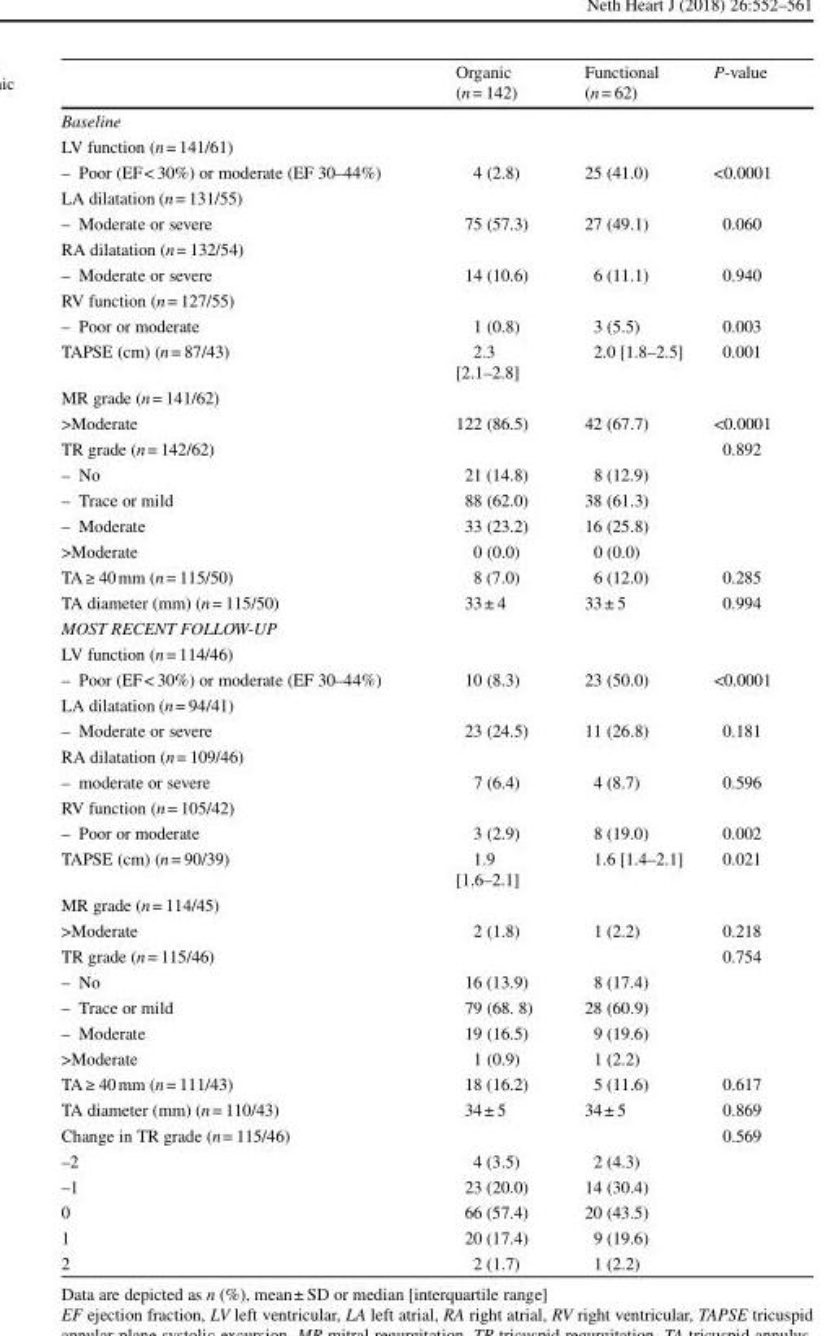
<table><thead><tr><td></td><td>Organic (n= 142)</td><td>Functional (n= 62)</td><td>P-value</td></tr></thead><tbody><tr><td colspan="4">Baseline</td></tr><tr><td colspan="4">LV function (n= 141/61)</td></tr><tr><td>– Poor (EF&lt; 30%) or moderate (EF 30–44%)</td><td>4 (2.8)</td><td>25 (41.0)</td><td>&lt;0.0001</td></tr><tr><td colspan="4">LA dilatation (n= 131/55)</td></tr><tr><td>– Moderate or severe</td><td>75 (57.3)</td><td>27 (49.1)</td><td>0.060</td></tr><tr><td colspan="4">RA dilatation (n= 132/54)</td></tr><tr><td>– Moderate or severe</td><td>14 (10.6)</td><td>6 (11.1)</td><td>0.940</td></tr><tr><td colspan="4">RV function (n= 127/55)</td></tr><tr><td>– Poor or moderate</td><td>1 (0.8)</td><td>3 (5.5)</td><td>0.003</td></tr><tr><td>TAPSE (cm) (n= 87/43)</td><td>2.3 [2.1–2.8]</td><td>2.0 [1.8–2.5]</td><td>0.001</td></tr><tr><td colspan="4">MR grade (n= 141/62)</td></tr><tr><td>&gt;Moderate</td><td>122 (86.5)</td><td>42 (67.7)</td><td>&lt;0.0001</td></tr><tr><td>TR grade (n= 142/62)</td><td></td><td></td><td>0.892</td></tr><tr><td>– No</td><td>21 (14.8)</td><td>8 (12.9)</td><td></td></tr><tr><td>– Trace or mild</td><td>88 (62.0)</td><td>38 (61.3)</td><td></td></tr><tr><td>– Moderate</td><td>33 (23.2)</td><td>16 (25.8)</td><td></td></tr><tr><td>&gt;Moderate</td><td>0 (0.0)</td><td>0 (0.0)</td><td></td></tr><tr><td>TA≥ 40mm (n= 115/50)</td><td>8 (7.0)</td><td>6 (12.0)</td><td>0.285</td></tr><tr><td>TA diameter (mm) (n= 115/50)</td><td>33± 4</td><td>33± 5</td><td>0.994</td></tr><tr><td colspan="4">MOST RECENT FOLLOW-UP</td></tr><tr><td colspan="4">LV function (n= 114/46)</td></tr><tr><td>– Poor (EF&lt; 30%) or moderate (EF 30–44%)</td><td>10 (8.3)</td><td>23 (50.0)</td><td>&lt;0.0001</td></tr><tr><td colspan="4">LA dilatation (n= 94/41)</td></tr><tr><td>– Moderate or severe</td><td>23 (24.5)</td><td>11 (26.8)</td><td>0.181</td></tr><tr><td colspan="4">RA dilatation (n= 109/46)</td></tr><tr><td>– moderate or severe</td><td>7 (6.4)</td><td>4 (8.7)</td><td>0.596</td></tr><tr><td colspan="4">RV function (n= 105/42)</td></tr><tr><td>– Poor or moderate</td><td>3 (2.9)</td><td>8 (19.0)</td><td>0.002</td></tr><tr><td>TAPSE (cm) (n= 90/39)</td><td>1.9 [1.6–2.1]</td><td>1.6 [1.4–2.1]</td><td>0.021</td></tr><tr><td colspan="4">MR grade (n= 114/45)</td></tr><tr><td>&gt;Moderate</td><td>2 (1.8)</td><td>1 (2.2)</td><td>0.218</td></tr><tr><td>TR grade (n= 115/46)</td><td></td><td></td><td>0.754</td></tr><tr><td>– No</td><td>16 (13.9)</td><td>8 (17.4)</td><td></td></tr><tr><td>– Trace or mild</td><td>79 (68. 8)</td><td>28 (60.9)</td><td></td></tr><tr><td>– Moderate</td><td>19 (16.5)</td><td>9 (19.6)</td><td></td></tr><tr><td>&gt;Moderate</td><td>1 (0.9)</td><td>1 (2.2)</td><td></td></tr><tr><td>TA≥ 40mm (n= 111/43)</td><td>18 (16.2)</td><td>5 (11.6)</td><td>0.617</td></tr><tr><td>TA diameter (mm) (n= 110/43)</td><td>34± 5</td><td>34± 5</td><td>0.869</td></tr><tr><td>Change in TR grade (n= 115/46)</td><td></td><td></td><td>0.569</td></tr><tr><td>–2</td><td>4 (3.5)</td><td>2 (4.3)</td><td></td></tr><tr><td>–1</td><td>23 (20.0)</td><td>14 (30.4)</td><td></td></tr><tr><td>0</td><td>66 (57.4)</td><td>20 (43.5)</td><td></td></tr><tr><td>1</td><td>20 (17.4)</td><td>9 (19.6)</td><td></td></tr><tr><td>2</td><td>2 (1.7)</td><td>1 (2.2)</td><td></td></tr></tbody></table>